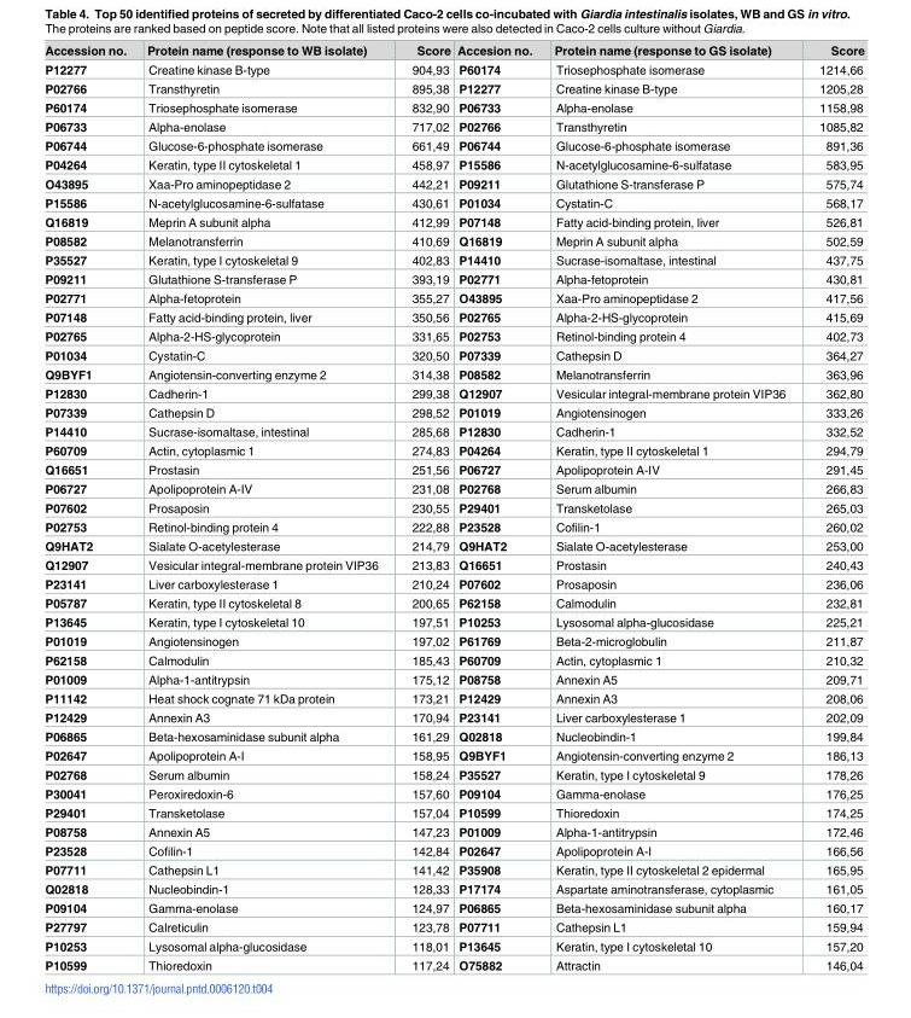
<table><thead><tr><td>Accession no.</td><td>Protein name (response to WB isolate)</td><td>Score</td><td>Accesion no.</td><td>Protein name (response to GS isolate)</td><td>Score</td></tr></thead><tbody><tr><td>P12277</td><td>Creatine kinase B-type</td><td>904,93</td><td>P60174</td><td>Triosephosphate isomerase</td><td>1214,66</td></tr><tr><td>P02766</td><td>Transthyretin</td><td>895,38</td><td>P12277</td><td>Creatine kinase B-type</td><td>1205,28</td></tr><tr><td>P60174</td><td>Triosephosphate isomerase</td><td>832,90</td><td>P06733</td><td>Alpha-enolase</td><td>1158,98</td></tr><tr><td>P06733</td><td>Alpha-enolase</td><td>717,02</td><td>P02766</td><td>Transthyretin</td><td>1085,82</td></tr><tr><td>P06744</td><td>Glucose-6-phosphate isomerase</td><td>661,49</td><td>P06744</td><td>Glucose-6-phosphate isomerase</td><td>891,36</td></tr><tr><td>P04264</td><td>Keratin, type II cytoskeletal 1</td><td>458,97</td><td>P15586</td><td>N-acetylglucosamine-6-sulfatase</td><td>583,95</td></tr><tr><td>O43895</td><td>Xaa-Pro aminopeptidase 2</td><td>442,21</td><td>P09211</td><td>Glutathione S-transferase P</td><td>575,74</td></tr><tr><td>P15586</td><td>N-acetylglucosamine-6-sulfatase</td><td>430,61</td><td>P01034</td><td>Cystatin-C</td><td>568,17</td></tr><tr><td>Q16819</td><td>Meprin A subunit alpha</td><td>412,99</td><td>P07148</td><td>Fatty acid-binding protein, liver</td><td>526,81</td></tr><tr><td>P08582</td><td>Melanotransferrin</td><td>410,69</td><td>Q16819</td><td>Meprin A subunit alpha</td><td>502,59</td></tr><tr><td>P35527</td><td>Keratin, type I cytoskeletal 9</td><td>402,83</td><td>P14410</td><td>Sucrase-isomaltase, intestinal</td><td>437,75</td></tr><tr><td>P09211</td><td>Glutathione S-transferase P</td><td>393,19</td><td>P02771</td><td>Alpha-fetoprotein</td><td>430,81</td></tr><tr><td>P02771</td><td>Alpha-fetoprotein</td><td>355,27</td><td>O43895</td><td>Xaa-Pro aminopeptidase 2</td><td>417,56</td></tr><tr><td>P07148</td><td>Fatty acid-binding protein, liver</td><td>350,56</td><td>P02765</td><td>Alpha-2-HS-glycoprotein</td><td>415,69</td></tr><tr><td>P02765</td><td>Alpha-2-HS-glycoprotein</td><td>331,65</td><td>P02753</td><td>Retinol-binding protein 4</td><td>402,73</td></tr><tr><td>P01034</td><td>Cystatin-C</td><td>320,50</td><td>P07339</td><td>Cathepsin D</td><td>364,27</td></tr><tr><td>Q9BYF1</td><td>Angiotensin-converting enzyme 2</td><td>314,38</td><td>P08582</td><td>Melanotransferrin</td><td>363,96</td></tr><tr><td>P12830</td><td>Cadherin-1</td><td>299,38</td><td>Q12907</td><td>Vesicular integral-membrane protein VIP36</td><td>362,80</td></tr><tr><td>P07339</td><td>Cathepsin D</td><td>298,52</td><td>P01019</td><td>Angiotensinogen</td><td>333,26</td></tr><tr><td>P14410</td><td>Sucrase-isomaltase, intestinal</td><td>285,68</td><td>P12830</td><td>Cadherin-1</td><td>332,52</td></tr><tr><td>P60709</td><td>Actin, cytoplasmic 1</td><td>274,83</td><td>P04264</td><td>Keratin, type II cytoskeletal 1</td><td>294,79</td></tr><tr><td>Q16651</td><td>Prostasin</td><td>251,56</td><td>P06727</td><td>Apolipoprotein A-IV</td><td>291,45</td></tr><tr><td>P06727</td><td>Apolipoprotein A-IV</td><td>231,08</td><td>P02768</td><td>Serum albumin</td><td>266,83</td></tr><tr><td>P07602</td><td>Prosaposin</td><td>230,55</td><td>P29401</td><td>Transketolase</td><td>265,03</td></tr><tr><td>P02753</td><td>Retinol-binding protein 4</td><td>222,88</td><td>P23528</td><td>Cofilin-1</td><td>260,02</td></tr><tr><td>Q9HAT2</td><td>Sialate O-acetylesterase</td><td>214,79</td><td>Q9HAT2</td><td>Sialate O-acetylesterase</td><td>253,00</td></tr><tr><td>Q12907</td><td>Vesicular integral-membrane protein VIP36</td><td>213,83</td><td>Q16651</td><td>Prostasin</td><td>240,43</td></tr><tr><td>P23141</td><td>Liver carboxylesterase 1</td><td>210,24</td><td>P07602</td><td>Prosaposin</td><td>236,06</td></tr><tr><td>P05787</td><td>Keratin, type II cytoskeletal 8</td><td>200,65</td><td>P62158</td><td>Calmodulin</td><td>232,81</td></tr><tr><td>P13645</td><td>Keratin, type I cytoskeletal 10</td><td>197,51</td><td>P10253</td><td>Lysosomal alpha-glucosidase</td><td>225,21</td></tr><tr><td>P01019</td><td>Angiotensinogen</td><td>197,02</td><td>P61769</td><td>Beta-2-microglobulin</td><td>211,87</td></tr><tr><td>P62158</td><td>Calmodulin</td><td>185,43</td><td>P60709</td><td>Actin, cytoplasmic 1</td><td>210,32</td></tr><tr><td>P01009</td><td>Alpha-1-antitrypsin</td><td>175,12</td><td>P08758</td><td>Annexin A5</td><td>209,71</td></tr><tr><td>P11142</td><td>Heat shock cognate 71 kDa protein</td><td>173,21</td><td>P12429</td><td>Annexin A3</td><td>208,06</td></tr><tr><td>P12429</td><td>Annexin A3</td><td>170,94</td><td>P23141</td><td>Liver carboxylesterase 1</td><td>202,09</td></tr><tr><td>P06865</td><td>Beta-hexosaminidase subunit alpha</td><td>161,29</td><td>Q02818</td><td>Nucleobindin-1</td><td>199,84</td></tr><tr><td>P02647</td><td>Apolipoprotein A-I</td><td>158,95</td><td>Q9BYF1</td><td>Angiotensin-converting enzyme 2</td><td>186,13</td></tr><tr><td>P02768</td><td>Serum albumin</td><td>158,24</td><td>P35527</td><td>Keratin, type I cytoskeletal 9</td><td>178,26</td></tr><tr><td>P30041</td><td>Peroxiredoxin-6</td><td>157,60</td><td>P09104</td><td>Gamma-enolase</td><td>176,25</td></tr><tr><td>P29401</td><td>Transketolase</td><td>157,04</td><td>P10599</td><td>Thioredoxin</td><td>174,25</td></tr><tr><td>P08758</td><td>Annexin A5</td><td>147,23</td><td>P01009</td><td>Alpha-1-antitrypsin</td><td>172,46</td></tr><tr><td>P23528</td><td>Cofilin-1</td><td>142,84</td><td>P02647</td><td>Apolipoprotein A-I</td><td>166,56</td></tr><tr><td>P07711</td><td>Cathepsin L1</td><td>141,42</td><td>P35908</td><td>Keratin, type II cytoskeletal 2 epidermal</td><td>165,95</td></tr><tr><td>Q02818</td><td>Nucleobindin-1</td><td>128,33</td><td>P17174</td><td>Aspartate aminotransferase, cytoplasmic</td><td>161,05</td></tr><tr><td>P09104</td><td>Gamma-enolase</td><td>124,97</td><td>P06865</td><td>Beta-hexosaminidase subunit alpha</td><td>160,17</td></tr><tr><td>P27797</td><td>Calreticulin</td><td>123,78</td><td>P07711</td><td>Cathepsin L1</td><td>159,94</td></tr><tr><td>P10253</td><td>Lysosomal alpha-glucosidase</td><td>118,01</td><td>P13645</td><td>Keratin, type I cytoskeletal 10</td><td>157,20</td></tr><tr><td>P10599</td><td>Thioredoxin</td><td>117,24</td><td>O75882</td><td>Attractin</td><td>146,04</td></tr></tbody></table>